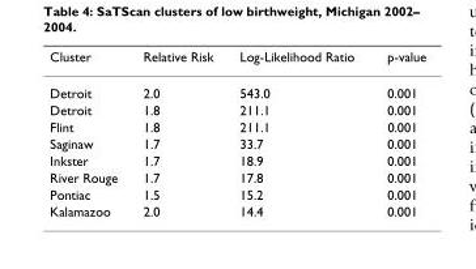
<table><thead><tr><td>Cluster</td><td>Relative Risk</td><td>Log-Likelihood Ratio</td><td>p-value</td></tr></thead><tbody><tr><td>Detroit</td><td>2.0</td><td>543.0</td><td>0.001</td></tr><tr><td>Detroit</td><td>1.8</td><td>211.1</td><td>0.001</td></tr><tr><td>Flint</td><td>1.8</td><td>211.1</td><td>0.001</td></tr><tr><td>Saginaw</td><td>1.7</td><td>33.7</td><td>0.001</td></tr><tr><td>Inkster</td><td>1.7</td><td>18.9</td><td>0.001</td></tr><tr><td>River Rouge</td><td>1.7</td><td>17.8</td><td>0.001</td></tr><tr><td>Pontiac</td><td>1.5</td><td>15.2</td><td>0.001</td></tr><tr><td>Kalamazoo</td><td>2.0</td><td>14.4</td><td>0.001</td></tr></tbody></table>